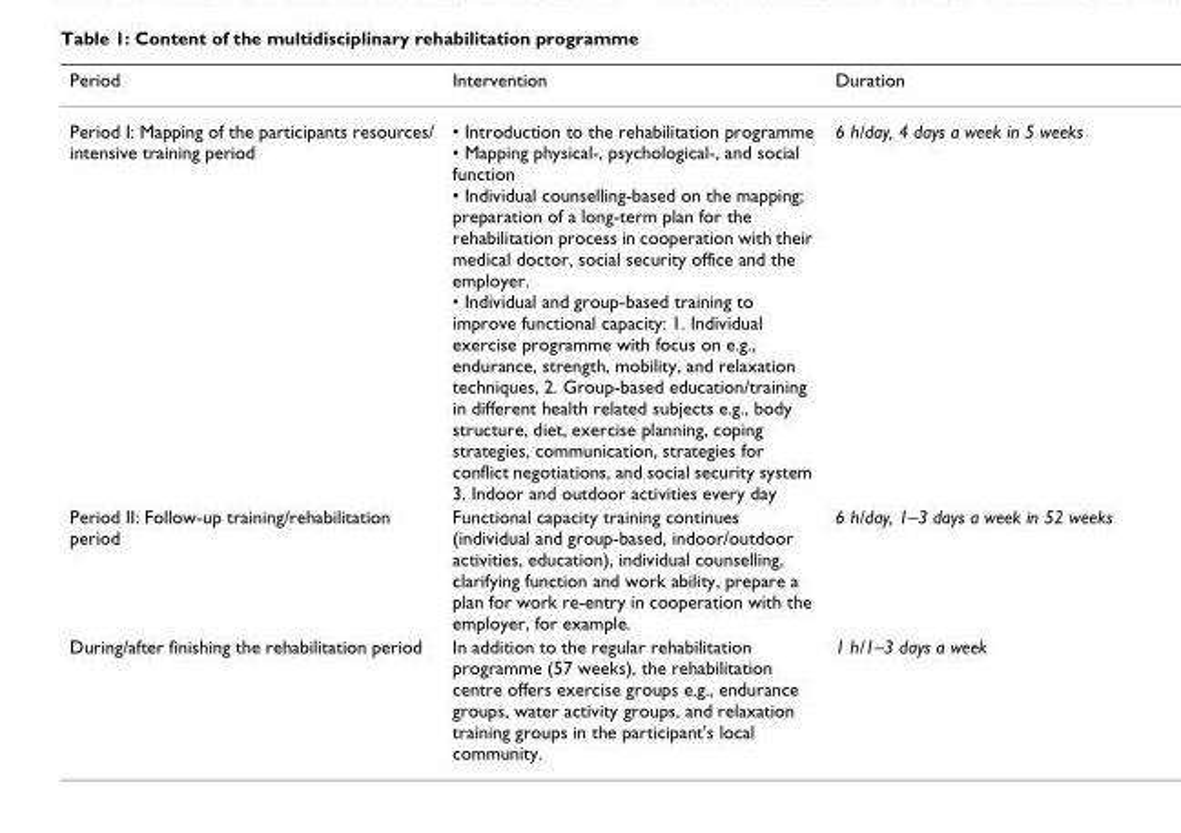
<table><thead><tr><td>Period</td><td>Intervention</td><td>Duration</td></tr></thead><tbody><tr><td>Period I: Mapping of the participants resources/ intensive training period</td><td>• Introduction to the rehabilitation programme • Mapping physical-, psychological-, and social function • Individual counselling-based on the mapping; preparation of a long-term plan for the rehabilitation process in cooperation with their medical doctor, social security office and the employer. • Individual and group-based training to improve functional capacity: 1. Individual exercise programme with focus on e.g., endurance, strength, mobility, and relaxation techniques, 2. Group-based education/training in different health related subjects e.g., body structure, diet, exercise planning, coping strategies, communication, strategies for conflict negotiations, and social security system 3. Indoor and outdoor activities every day</td><td>6 h/day, 4 days a week in 5 weeks</td></tr><tr><td>Period II: Follow-up training/rehabilitation period</td><td>Functional capacity training continues (individual and group-based, indoor/outdoor activities, education), individual counselling, clarifying function and work ability, prepare a plan for work re-entry in cooperation with the employer, for example.</td><td>6 h/day, 1–3 days a week in 52 weeks</td></tr><tr><td>During/after finishing the rehabilitation period</td><td>In addition to the regular rehabilitation programme (57 weeks), the rehabilitation centre offers exercise groups e.g., endurance groups, water activity groups, and relaxation training groups in the participant&#x27;s local community.</td><td>1 h/1–3 days a week</td></tr></tbody></table>